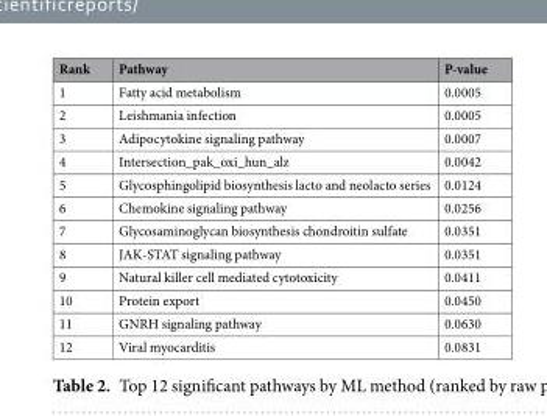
<table><thead><tr><td>Rank</td><td>Pathway</td><td>P-value</td></tr></thead><tbody><tr><td>1</td><td>Fatty acid metabolism</td><td>0.0005</td></tr><tr><td>2</td><td>Leishmania infection</td><td>0.0005</td></tr><tr><td>3</td><td>Adipocytokine signaling pathway</td><td>0.0007</td></tr><tr><td>4</td><td>Intersection_pak_oxi_hun_alz</td><td>0.0042</td></tr><tr><td>5</td><td>Glycosphingolipid biosynthesis lacto and neolacto series</td><td>0.0124</td></tr><tr><td>6</td><td>Chemokine signaling pathway</td><td>0.0256</td></tr><tr><td>7</td><td>Glycosaminoglycan biosynthesis chondroitin sulfate</td><td>0.0351</td></tr><tr><td>8</td><td>JAK-STAT signaling pathway</td><td>0.0351</td></tr><tr><td>9</td><td>Natural killer cell mediated cytotoxicity</td><td>0.0411</td></tr><tr><td>10</td><td>Protein export</td><td>0.0450</td></tr><tr><td>11</td><td>GNRH signaling pathway</td><td>0.0630</td></tr><tr><td>12</td><td>Viral myocarditis</td><td>0.0831</td></tr></tbody></table>